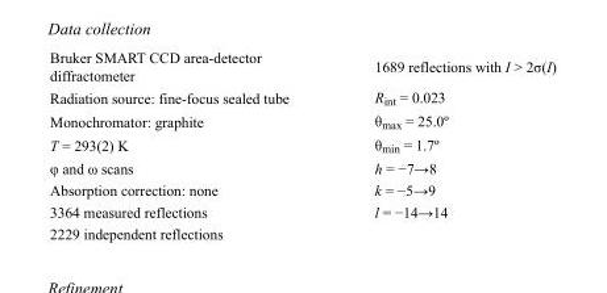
<table><tbody><tr><td>Bruker SMART CCD area-detector diffractometer</td><td>1689 reflections with I &gt; 2σ(I)</td></tr><tr><td>Radiation source: fine-focus sealed tube</td><td>R<sub>int</sub> = 0.023</td></tr><tr><td>Monochromator: graphite</td><td>θ<sub>max</sub> = 25.0º</td></tr><tr><td>T = 293(2) K</td><td>θ<sub>min</sub> = 1.7º</td></tr><tr><td>φ and ω scans</td><td>h = −7→8</td></tr><tr><td>Absorption correction: none</td><td>k = −5→9</td></tr><tr><td>3364 measured reflections</td><td>l = −14→14</td></tr><tr><td>2229 independent reflections</td><td></td></tr></tbody></table>